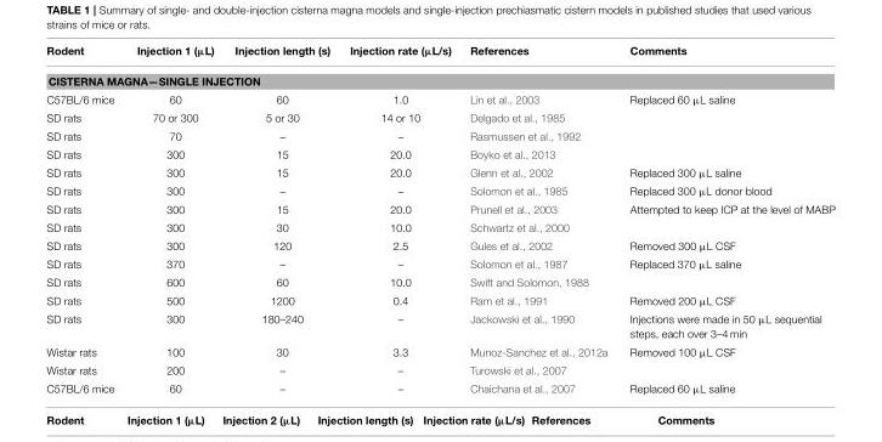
<table><thead><tr><td>Rodent</td><td>Injection 1 (µL)</td><td>Injection length (s)</td><td>Injection rate (µL/s)</td><td>References</td><td>Comments</td></tr></thead><tbody><tr><td colspan="6">CISTERNA MAGNA—SINGLE INJECTION</td></tr><tr><td>C57BL/6 mice</td><td>60</td><td>60</td><td>1.0</td><td>Lin et al., 2003</td><td>Replaced 60 µL saline</td></tr><tr><td>SD rats</td><td>70 or 300</td><td>5 or 30</td><td>14 or 10</td><td>Delgado et al., 1985</td><td></td></tr><tr><td>SD rats</td><td>70</td><td>–</td><td>–</td><td>Rasmussen et al., 1992</td><td></td></tr><tr><td>SD rats</td><td>300</td><td>15</td><td>20.0</td><td>Boyko et al., 2013</td><td></td></tr><tr><td>SD rats</td><td>300</td><td>15</td><td>20.0</td><td>Glenn et al., 2002</td><td>Replaced 300 µL saline</td></tr><tr><td>SD rats</td><td>300</td><td>–</td><td>–</td><td>Solomon et al., 1985</td><td>Replaced 300 µL donor blood</td></tr><tr><td>SD rats</td><td>300</td><td>15</td><td>20.0</td><td>Prunell et al., 2003</td><td>Attempted to keep ICP at the level of MABP</td></tr><tr><td>SD rats</td><td>300</td><td>30</td><td>10.0</td><td>Schwartz et al., 2000</td><td></td></tr><tr><td>SD rats</td><td>300</td><td>120</td><td>2.5</td><td>Gules et al., 2002</td><td>Removed 300 µL CSF</td></tr><tr><td>SD rats</td><td>370</td><td>–</td><td>–</td><td>Solomon et al., 1987</td><td>Replaced 370 µL saline</td></tr><tr><td>SD rats</td><td>600</td><td>60</td><td>10.0</td><td>Swift and Solomon, 1988</td><td></td></tr><tr><td>SD rats</td><td>500</td><td>1200</td><td>0.4</td><td>Ram et al., 1991</td><td>Removed 200 µL CSF</td></tr><tr><td>SD rats</td><td>300</td><td>180–240</td><td>–</td><td>Jackowski et al., 1990</td><td>Injections were made in 50 µL sequential steps, each over 3–4 min</td></tr><tr><td>Wistar rats</td><td>100</td><td>30</td><td>3.3</td><td>Munoz-Sanchez et al., 2012a</td><td>Removed 100 µL CSF</td></tr><tr><td>Wistar rats</td><td>200</td><td>–</td><td>–</td><td>Turowski et al., 2007</td><td></td></tr><tr><td>C57BL/6 mice</td><td>60</td><td>–</td><td>–</td><td>Chaichana et al., 2007</td><td>Replaced 60 µL saline</td></tr></tbody></table>